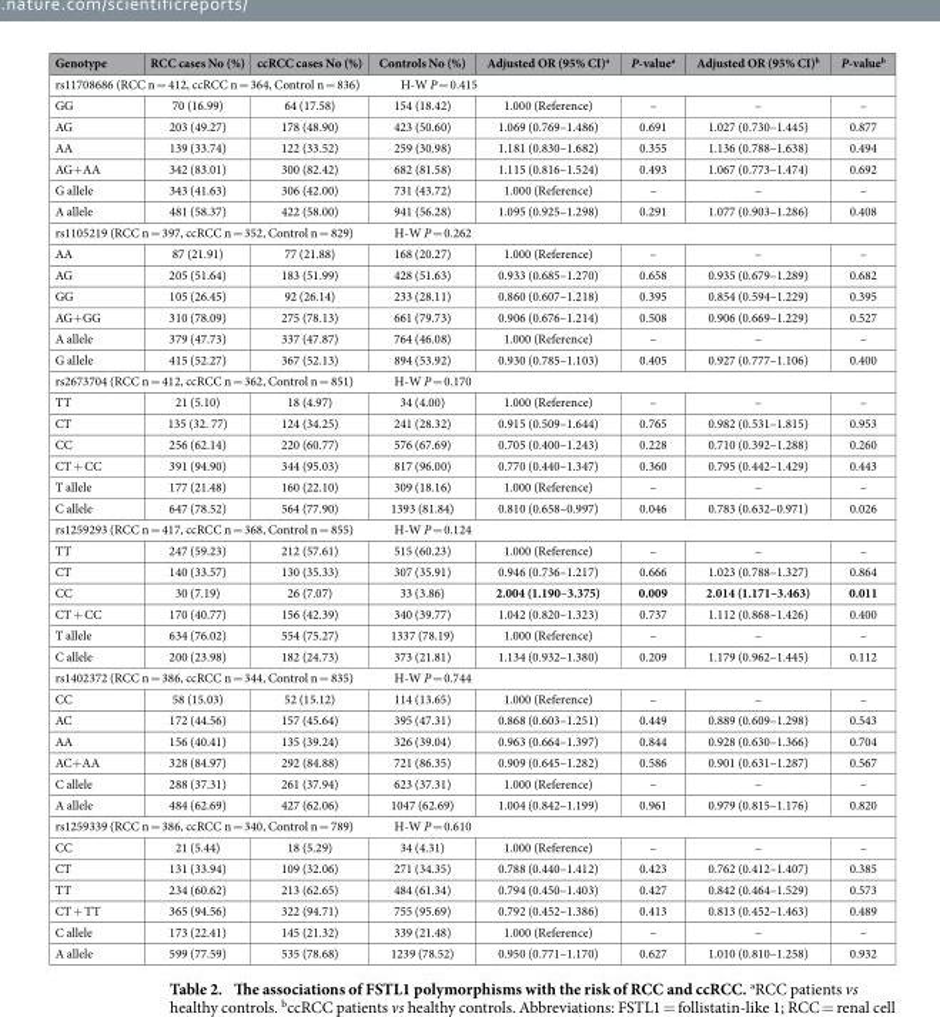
<table><thead><tr><td>Genotype</td><td>RCC cases No (%)</td><td>ccRCC cases No (%)</td><td>Controls No (%)</td><td>Adjusted OR (95% CI)<sup>a</sup></td><td>P-value<sup>a</sup></td><td>Adjusted OR (95% CI)<sup>b</sup></td><td>P-value<sup>b</sup></td></tr></thead><tbody><tr><td colspan="8">rs11708686 (RCC n = 412, ccRCC n = 364, Control n = 836) H-W P = 0.415</td></tr><tr><td>GG</td><td>70 (16.99)</td><td>64 (17.58)</td><td>154 (18.42)</td><td>1.000 (Reference)</td><td>–</td><td>–</td><td>–</td></tr><tr><td>AG</td><td>203 (49.27)</td><td>178 (48.90)</td><td>423 (50.60)</td><td>1.069 (0.769–1.486)</td><td>0.691</td><td>1.027 (0.730–1.445)</td><td>0.877</td></tr><tr><td>AA</td><td>139 (33.74)</td><td>122 (33.52)</td><td>259 (30.98)</td><td>1.181 (0.830–1.682)</td><td>0.355</td><td>1.136 (0.788–1.638)</td><td>0.494</td></tr><tr><td>AG+ AA</td><td>342 (83.01)</td><td>300 (82.42)</td><td>682 (81.58)</td><td>1.115 (0.816–1.524)</td><td>0.493</td><td>1.067 (0.773–1.474)</td><td>0.692</td></tr><tr><td>G allele</td><td>343 (41.63)</td><td>306 (42.00)</td><td>731 (43.72)</td><td>1.000 (Reference)</td><td>–</td><td>–</td><td>–</td></tr><tr><td>A allele</td><td>481 (58.37)</td><td>422 (58.00)</td><td>941 (56.28)</td><td>1.095 (0.925–1.298)</td><td>0.291</td><td>1.077 (0.903–1.286)</td><td>0.408</td></tr><tr><td colspan="8">rs1105219 (RCC n = 397, ccRCC n = 352, Control n = 829) H-W P = 0.262</td></tr><tr><td>AA</td><td>87 (21.91)</td><td>77 (21.88)</td><td>168 (20.27)</td><td>1.000 (Reference)</td><td>–</td><td>–</td><td>–</td></tr><tr><td>AG</td><td>205 (51.64)</td><td>183 (51.99)</td><td>428 (51.63)</td><td>0.933 (0.685–1.270)</td><td>0.658</td><td>0.935 (0.679–1.289)</td><td>0.682</td></tr><tr><td>GG</td><td>105 (26.45)</td><td>92 (26.14)</td><td>233 (28.11)</td><td>0.860 (0.607–1.218)</td><td>0.395</td><td>0.854 (0.594–1.229)</td><td>0.395</td></tr><tr><td>AG+ GG</td><td>310 (78.09)</td><td>275 (78.13)</td><td>661 (79.73)</td><td>0.906 (0.676–1.214)</td><td>0.508</td><td>0.906 (0.669–1.229)</td><td>0.527</td></tr><tr><td>A allele</td><td>379 (47.73)</td><td>337 (47.87)</td><td>764 (46.08)</td><td>1.000 (Reference)</td><td>–</td><td>–</td><td>–</td></tr><tr><td>G allele</td><td>415 (52.27)</td><td>367 (52.13)</td><td>894 (53.92)</td><td>0.930 (0.785–1.103)</td><td>0.405</td><td>0.927 (0.777–1.106)</td><td>0.400</td></tr><tr><td colspan="8">rs2673704 (RCC n = 412, ccRCC n = 362, Control n = 851) H-W P = 0.170</td></tr><tr><td>TT</td><td>21 (5.10)</td><td>18 (4.97)</td><td>34 (4.00)</td><td>1.000 (Reference)</td><td>–</td><td>–</td><td>–</td></tr><tr><td>CT</td><td>135 (32. 77)</td><td>124 (34.25)</td><td>241 (28.32)</td><td>0.915 (0.509–1.644)</td><td>0.765</td><td>0.982 (0.531–1.815)</td><td>0.953</td></tr><tr><td>CC</td><td>256 (62.14)</td><td>220 (60.77)</td><td>576 (67.69)</td><td>0.705 (0.400–1.243)</td><td>0.228</td><td>0.710 (0.392–1.288)</td><td>0.260</td></tr><tr><td>CT + CC</td><td>391 (94.90)</td><td>344 (95.03)</td><td>817 (96.00)</td><td>0.770 (0.440–1.347)</td><td>0.360</td><td>0.795 (0.442–1.429)</td><td>0.443</td></tr><tr><td>T allele</td><td>177 (21.48)</td><td>160 (22.10)</td><td>309 (18.16)</td><td>1.000 (Reference)</td><td>–</td><td>–</td><td>–</td></tr><tr><td>C allele</td><td>647 (78.52)</td><td>564 (77.90)</td><td>1393 (81.84)</td><td>0.810 (0.658–0.997)</td><td>0.046</td><td>0.783 (0.632–0.971)</td><td>0.026</td></tr><tr><td colspan="8">rs1259293 (RCC n = 417, ccRCC n = 368, Control n = 855) H-W P = 0.124</td></tr><tr><td>TT</td><td>247 (59.23)</td><td>212 (57.61)</td><td>515 (60.23)</td><td>1.000 (Reference)</td><td>–</td><td>–</td><td>–</td></tr><tr><td>CT</td><td>140 (33.57)</td><td>130 (35.33)</td><td>307 (35.91)</td><td>0.946 (0.736–1.217)</td><td>0.666</td><td>1.023 (0.788–1.327)</td><td>0.864</td></tr><tr><td>CC</td><td>30 (7.19)</td><td>26 (7.07)</td><td>33 (3.86)</td><td>2.004 (1.190–3.375)</td><td>0.009</td><td>2.014 (1.171–3.463)</td><td>0.011</td></tr><tr><td>CT + CC</td><td>170 (40.77)</td><td>156 (42.39)</td><td>340 (39.77)</td><td>1.042 (0.820–1.323)</td><td>0.737</td><td>1.112 (0.868–1.426)</td><td>0.400</td></tr><tr><td>T allele</td><td>634 (76.02)</td><td>554 (75.27)</td><td>1337 (78.19)</td><td>1.000 (Reference)</td><td>–</td><td>–</td><td>–</td></tr><tr><td>C allele</td><td>200 (23.98)</td><td>182 (24.73)</td><td>373 (21.81)</td><td>1.134 (0.932–1.380)</td><td>0.209</td><td>1.179 (0.962–1.445)</td><td>0.112</td></tr><tr><td colspan="8">rs1402372 (RCC n = 386, ccRCC n = 344, Control n = 835) H-W P = 0.744</td></tr><tr><td>CC</td><td>58 (15.03)</td><td>52 (15.12)</td><td>114 (13.65)</td><td>1.000 (Reference)</td><td>–</td><td>–</td><td>–</td></tr><tr><td>AC</td><td>172 (44.56)</td><td>157 (45.64)</td><td>395 (47.31)</td><td>0.868 (0.603–1.251)</td><td>0.449</td><td>0.889 (0.609–1.298)</td><td>0.543</td></tr><tr><td>AA</td><td>156 (40.41)</td><td>135 (39.24)</td><td>326 (39.04)</td><td>0.963 (0.664–1.397)</td><td>0.844</td><td>0.928 (0.630–1.366)</td><td>0.704</td></tr><tr><td>AC+ AA</td><td>328 (84.97)</td><td>292 (84.88)</td><td>721 (86.35)</td><td>0.909 (0.645–1.282)</td><td>0.586</td><td>0.901 (0.631–1.287)</td><td>0.567</td></tr><tr><td>C allele</td><td>288 (37.31)</td><td>261 (37.94)</td><td>623 (37.31)</td><td>1.000 (Reference)</td><td>–</td><td>–</td><td>–</td></tr><tr><td>A allele</td><td>484 (62.69)</td><td>427 (62.06)</td><td>1047 (62.69)</td><td>1.004 (0.842–1.199)</td><td>0.961</td><td>0.979 (0.815–1.176)</td><td>0.820</td></tr><tr><td colspan="8">rs1259339 (RCC n = 386, ccRCC n = 340, Control n = 789) H-W P = 0.610</td></tr><tr><td>CC</td><td>21 (5.44)</td><td>18 (5.29)</td><td>34 (4.31)</td><td>1.000 (Reference)</td><td>–</td><td>–</td><td>–</td></tr><tr><td>CT</td><td>131 (33.94)</td><td>109 (32.06)</td><td>271 (34.35)</td><td>0.788 (0.440–1.412)</td><td>0.423</td><td>0.762 (0.412–1.407)</td><td>0.385</td></tr><tr><td>TT</td><td>234 (60.62)</td><td>213 (62.65)</td><td>484 (61.34)</td><td>0.794 (0.450–1.403)</td><td>0.427</td><td>0.842 (0.464–1.529)</td><td>0.573</td></tr><tr><td>CT + TT</td><td>365 (94.56)</td><td>322 (94.71)</td><td>755 (95.69)</td><td>0.792 (0.452–1.386)</td><td>0.413</td><td>0.813 (0.452–1.463)</td><td>0.489</td></tr><tr><td>C allele</td><td>173 (22.41)</td><td>145 (21.32)</td><td>339 (21.48)</td><td>1.000 (Reference)</td><td>–</td><td>–</td><td>–</td></tr><tr><td>A allele</td><td>599 (77.59)</td><td>535 (78.68)</td><td>1239 (78.52)</td><td>0.950 (0.771–1.170)</td><td>0.627</td><td>1.010 (0.810–1.258)</td><td>0.932</td></tr></tbody></table>